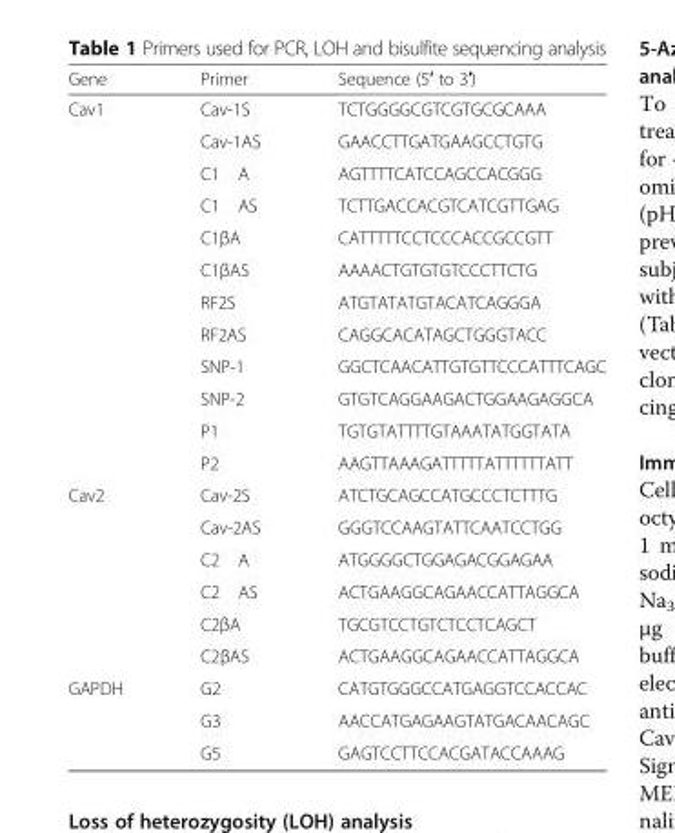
<table><thead><tr><td>Gene</td><td>Primer</td><td>Sequence (5′ to 3′)</td></tr></thead><tbody><tr><td rowspan="12">Cav1</td><td>Cav-1S</td><td>TCTGGGGCGTCGTGCGCAAA</td></tr><tr><td>Cav-1AS</td><td>GAACCTTGATGAAGCCTGTG</td></tr><tr><td>C1 A</td><td>AGTTTTCATCCAGCCACGGG</td></tr><tr><td>C1 AS</td><td>TCTTGACCACGTCATCGTTGAG</td></tr><tr><td>C1βA</td><td>CATTTTTCCTCCCACCGCCGTT</td></tr><tr><td>C1βAS</td><td>AAAACTGTGTGTCCCTTCTG</td></tr><tr><td>RF2S</td><td>ATGTATATGTACATCAGGGA</td></tr><tr><td>RF2AS</td><td>CAGGCACATAGCTGGGTACC</td></tr><tr><td>SNP-1</td><td>GGCTCAACATTGTGTTCCCATTTCAGC</td></tr><tr><td>SNP-2</td><td>GTGTCAGGAAGACTGGAAGAGGCA</td></tr><tr><td>P1</td><td>TGTGTATTTTGTAAATATGGTATA</td></tr><tr><td>P2</td><td>AAGTTAAAGATTTTTATTTTTTATT</td></tr><tr><td rowspan="6">Cav2</td><td>Cav-2S</td><td>ATCTGCAGCCATGCCCTCTTTG</td></tr><tr><td>Cav-2AS</td><td>GGGTCCAAGTATTCAATCCTGG</td></tr><tr><td>C2 A</td><td>ATGGGGCTGGAGACGGAGAA</td></tr><tr><td>C2 AS</td><td>ACTGAAGGCAGAACCATTAGGCA</td></tr><tr><td>C2βA</td><td>TGCGTCCTGTCTCCTCAGCT</td></tr><tr><td>C2βAS</td><td>ACTGAAGGCAGAACCATTAGGCA</td></tr><tr><td rowspan="3">GAPDH</td><td>G2</td><td>CATGTGGGCCATGAGGTCCACCAC</td></tr><tr><td>G3</td><td>AACCATGAGAAGTATGACAACAGC</td></tr><tr><td>G5</td><td>GAGTCCTTCCACGATACCAAAG</td></tr></tbody></table>